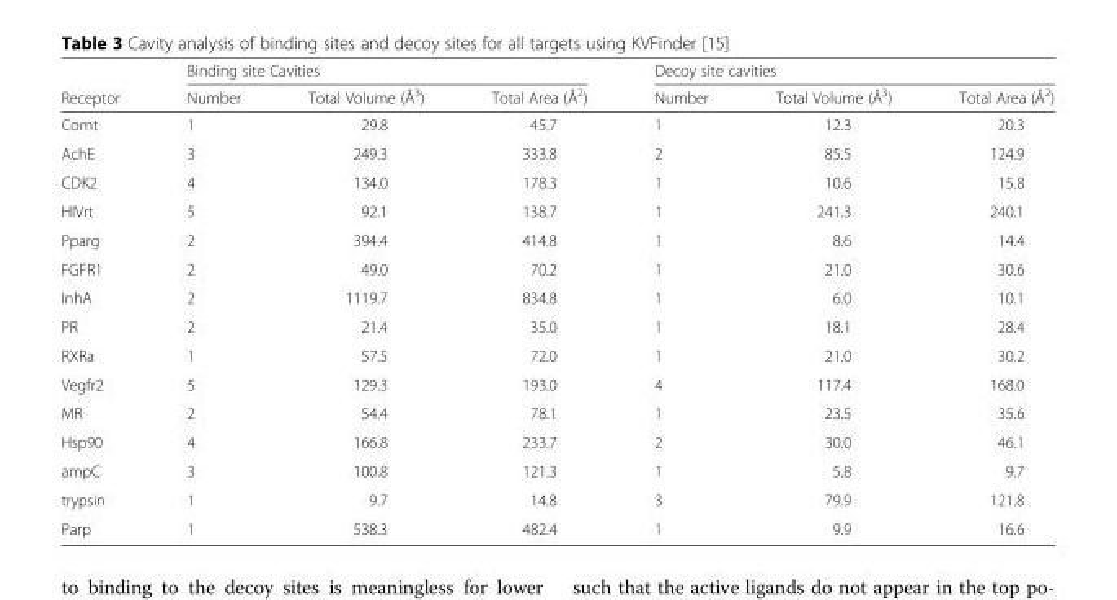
<table><thead><tr><td rowspan="2">Receptor</td><td colspan="3">Binding site Cavities</td><td colspan="3">Decoy site cavities</td></tr><tr><td>Number</td><td>Total Volume (Å<sup>3</sup>)</td><td>Total Area (Å<sup>2</sup>)</td><td>Number</td><td>Total Volume (Å<sup>3</sup>)</td><td>Total Area (Å<sup>2</sup>)</td></tr></thead><tbody><tr><td>Comt</td><td>1</td><td>29.8</td><td>45.7</td><td>1</td><td>12.3</td><td>20.3</td></tr><tr><td>AchE</td><td>3</td><td>249.3</td><td>333.8</td><td>2</td><td>85.5</td><td>124.9</td></tr><tr><td>CDK2</td><td>4</td><td>134.0</td><td>178.3</td><td>1</td><td>10.6</td><td>15.8</td></tr><tr><td>HIVrt</td><td>5</td><td>92.1</td><td>138.7</td><td>1</td><td>241.3</td><td>240.1</td></tr><tr><td>Pparg</td><td>2</td><td>394.4</td><td>414.8</td><td>1</td><td>8.6</td><td>14.4</td></tr><tr><td>FGFR1</td><td>2</td><td>49.0</td><td>70.2</td><td>1</td><td>21.0</td><td>30.6</td></tr><tr><td>InhA</td><td>2</td><td>1119.7</td><td>834.8</td><td>1</td><td>6.0</td><td>10.1</td></tr><tr><td>PR</td><td>2</td><td>21.4</td><td>35.0</td><td>1</td><td>18.1</td><td>28.4</td></tr><tr><td>RXRa</td><td>1</td><td>57.5</td><td>72.0</td><td>1</td><td>21.0</td><td>30.2</td></tr><tr><td>Vegfr2</td><td>5</td><td>129.3</td><td>193.0</td><td>4</td><td>117.4</td><td>168.0</td></tr><tr><td>MR</td><td>2</td><td>54.4</td><td>78.1</td><td>1</td><td>23.5</td><td>35.6</td></tr><tr><td>Hsp90</td><td>4</td><td>166.8</td><td>233.7</td><td>2</td><td>30.0</td><td>46.1</td></tr><tr><td>ampC</td><td>3</td><td>100.8</td><td>121.3</td><td>1</td><td>5.8</td><td>9.7</td></tr><tr><td>trypsin</td><td>1</td><td>9.7</td><td>14.8</td><td>3</td><td>79.9</td><td>121.8</td></tr><tr><td>Parp</td><td>1</td><td>538.3</td><td>482.4</td><td>1</td><td>9.9</td><td>16.6</td></tr></tbody></table>